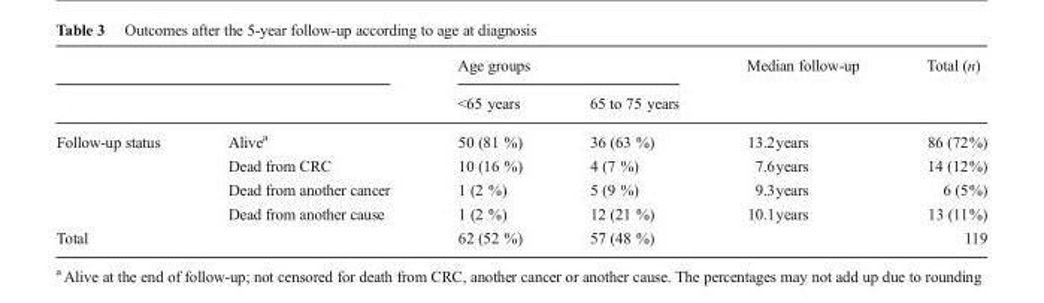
<table><thead><tr><td rowspan="2"></td><td rowspan="2"></td><td colspan="2">Age groups</td><td rowspan="2">Median follow-up</td><td rowspan="2">Total (n)</td></tr><tr><td>&lt;65 years</td><td>65 to 75 years</td></tr></thead><tbody><tr><td rowspan="4">Follow-up status</td><td>Alive<sup>a</sup></td><td>50 (81 %)</td><td>36 (63 %)</td><td>13.2years</td><td>86 (72%)</td></tr><tr><td>Dead from CRC</td><td>10 (16 %)</td><td>4 (7 %)</td><td>7.6years</td><td>14 (12%)</td></tr><tr><td>Dead from another cancer</td><td>1 (2 %)</td><td>5 (9 %)</td><td>9.3years</td><td>6 (5%)</td></tr><tr><td>Dead from another cause</td><td>1 (2 %)</td><td>12 (21 %)</td><td>10.1years</td><td>13 (11%)</td></tr><tr><td colspan="2">Total</td><td>62 (52 %)</td><td>57 (48 %)</td><td></td><td>119</td></tr></tbody></table>